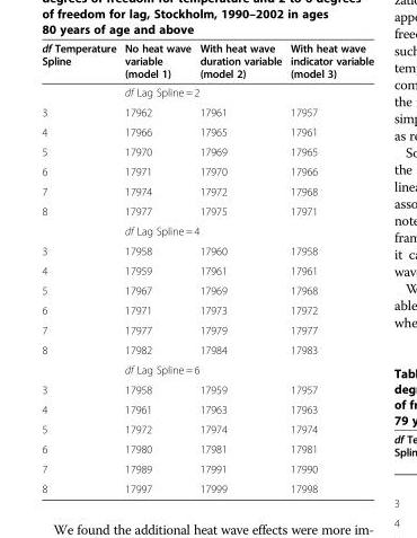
<table><thead><tr><td>df Temperature Spline</td><td>No heat wave variable (model 1)</td><td>With heat wave duration variable (model 2)</td><td>With heat wave indicator variable (model 3)</td></tr></thead><tbody><tr><td></td><td colspan="3">df Lag Spline = 2</td></tr><tr><td>3</td><td>17962</td><td>17961</td><td>17957</td></tr><tr><td>4</td><td>17966</td><td>17965</td><td>17961</td></tr><tr><td>5</td><td>17970</td><td>17969</td><td>17965</td></tr><tr><td>6</td><td>17971</td><td>17970</td><td>17966</td></tr><tr><td>7</td><td>17974</td><td>17972</td><td>17968</td></tr><tr><td rowspan="2">8</td><td>17977</td><td>17975</td><td>17971</td></tr><tr><td colspan="3">df Lag Spline = 4</td></tr><tr><td>3</td><td>17958</td><td>17960</td><td>17958</td></tr><tr><td>4</td><td>17959</td><td>17961</td><td>17961</td></tr><tr><td>5</td><td>17967</td><td>17969</td><td>17968</td></tr><tr><td>6</td><td>17971</td><td>17973</td><td>17972</td></tr><tr><td>7</td><td>17977</td><td>17979</td><td>17977</td></tr><tr><td rowspan="2">8</td><td>17982</td><td>17984</td><td>17983</td></tr><tr><td colspan="3">df Lag Spline = 6</td></tr><tr><td>3</td><td>17958</td><td>17959</td><td>17957</td></tr><tr><td>4</td><td>17961</td><td>17963</td><td>17963</td></tr><tr><td>5</td><td>17972</td><td>17974</td><td>17974</td></tr><tr><td>6</td><td>17980</td><td>17981</td><td>17981</td></tr><tr><td>7</td><td>17989</td><td>17991</td><td>17990</td></tr><tr><td>8</td><td>17997</td><td>17999</td><td>17998</td></tr></tbody></table>